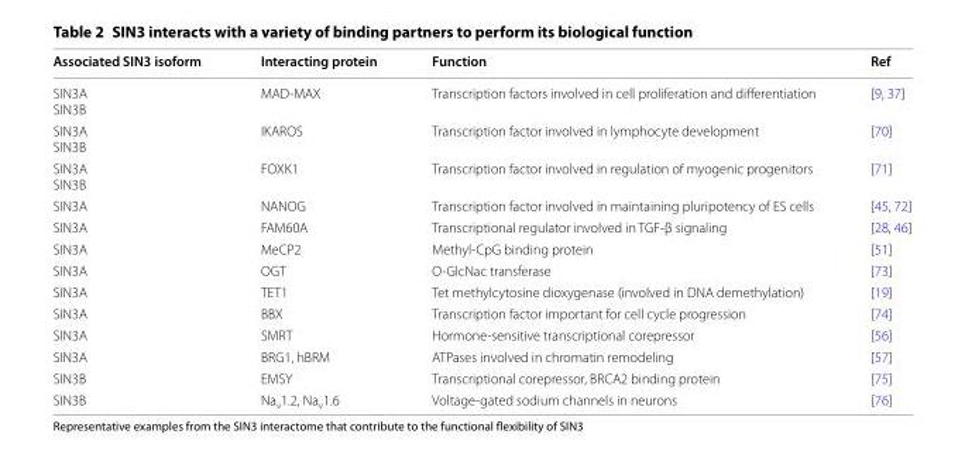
<table><thead><tr><td>Associated SIN3 isoform</td><td>Interacting protein</td><td>Function</td><td>Ref</td></tr></thead><tbody><tr><td>SIN3A SIN3B</td><td>MAD-MAX</td><td>Transcription factors involved in cell proliferation and differentiation</td><td>[9, 37]</td></tr><tr><td>SIN3A SIN3B</td><td>IKAROS</td><td>Transcription factor involved in lymphocyte development</td><td>[70]</td></tr><tr><td>SIN3A SIN3B</td><td>FOXK1</td><td>Transcription factor involved in regulation of myogenic progenitors</td><td>[71]</td></tr><tr><td>SIN3A</td><td>NANOG</td><td>Transcription factor involved in maintaining pluripotency of ES cells</td><td>[45, 72]</td></tr><tr><td>SIN3A</td><td>FAM60A</td><td>Transcriptional regulator involved in TGF-β signaling</td><td>[28, 46]</td></tr><tr><td>SIN3A</td><td>MeCP2</td><td>Methyl-CpG binding protein</td><td>[51]</td></tr><tr><td>SIN3A</td><td>OGT</td><td>O-GlcNac transferase</td><td>[73]</td></tr><tr><td>SIN3A</td><td>TET1</td><td>Tet methylcytosine dioxygenase (involved in DNA demethylation)</td><td>[19]</td></tr><tr><td>SIN3A</td><td>BBX</td><td>Transcription factor important for cell cycle progression</td><td>[74]</td></tr><tr><td>SIN3A</td><td>SMRT</td><td>Hormone-sensitive transcriptional corepressor</td><td>[56]</td></tr><tr><td>SIN3A</td><td>BRG1, hBRM</td><td>ATPases involved in chromatin remodeling</td><td>[57]</td></tr><tr><td>SIN3B</td><td>EMSY</td><td>Transcriptional corepressor, BRCA2 binding protein</td><td>[75]</td></tr><tr><td>SIN3B</td><td>Na<sub>v</sub>1.2, Na<sub>v</sub>1.6</td><td>Voltage-gated sodium channels in neurons</td><td>[76]</td></tr></tbody></table>